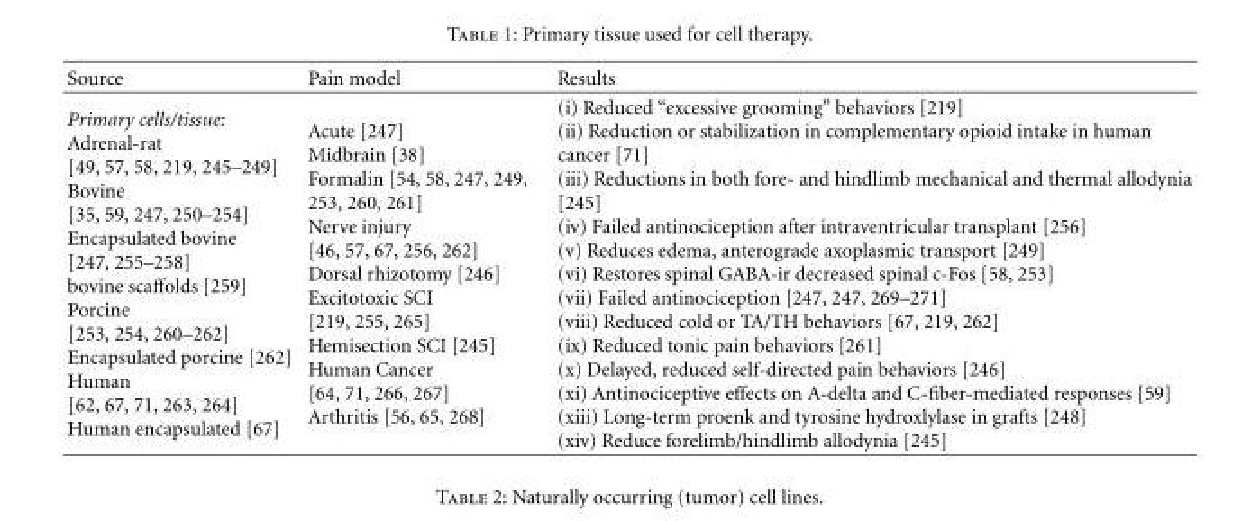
<table><thead><tr><td>Source</td><td>Pain model</td><td>Results</td></tr></thead><tbody><tr><td>Primary cells/tissue: Adrenal-rat [49, 57, 58, 219, 245–249] Bovine [35, 59, 247, 250–254] Encapsulated bovine [247, 255–258] bovine scaffolds [259] Porcine [253, 254, 260–262] Encapsulated porcine [262] Human [62, 67, 71, 263, 264] Human encapsulated [67]</td><td>Acute [247] Midbrain [38] Formalin [54, 58, 247, 249, 253, 260, 261] Nerve injury [46, 57, 67, 256, 262] Dorsal rhizotomy [246] Excitotoxic SCI [219, 255, 265] Hemisection SCI [245] Human Cancer [64, 71, 266, 267] Arthritis [56, 65, 268]</td><td>(i) Reduced “excessive grooming” behaviors [219] (ii) Reduction or stabilization in complementary opioid intake in human cancer [71] (iii) Reductions in both fore- and hindlimb mechanical and thermal allodynia [245] (iv) Failed antinociception after intraventricular transplant [256] (v) Reduces edema, anterograde axoplasmic transport [249] (vi) Restores spinal GABA-ir decreased spinal c-Fos [58, 253] (vii) Failed antinociception [247, 247, 269–271] (viii) Reduced cold or TA/TH behaviors [67, 219, 262] (ix) Reduced tonic pain behaviors [261] (x) Delayed, reduced self-directed pain behaviors [246] (xi) Antinociceptive effects on A-delta and C-fiber-mediated responses [59] (xiii) Long-term proenk and tyrosine hydroxlylase in grafts [248] (xiv) Reduce forelimb/hindlimb allodynia [245]</td></tr></tbody></table>